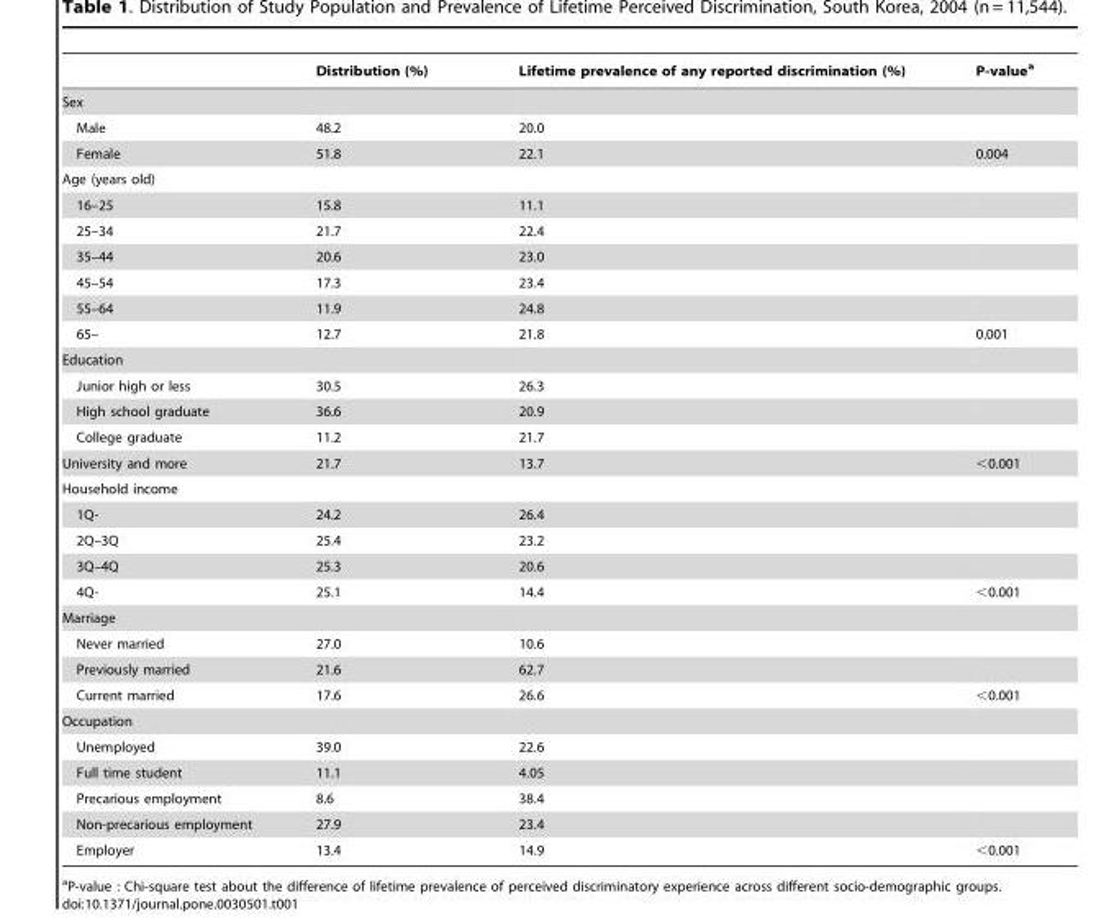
<table><thead><tr><td></td><td>Distribution (%)</td><td>Lifetime prevalence of any reported discrimination (%)</td><td>P-value<sup>a</sup></td></tr></thead><tbody><tr><td colspan="4">Sex</td></tr><tr><td>Male</td><td>48.2</td><td>20.0</td><td></td></tr><tr><td>Female</td><td>51.8</td><td>22.1</td><td>0.004</td></tr><tr><td colspan="4">Age (years old)</td></tr><tr><td>16–25</td><td>15.8</td><td>11.1</td><td></td></tr><tr><td>25–34</td><td>21.7</td><td>22.4</td><td></td></tr><tr><td>35–44</td><td>20.6</td><td>23.0</td><td></td></tr><tr><td>45–54</td><td>17.3</td><td>23.4</td><td></td></tr><tr><td>55–64</td><td>11.9</td><td>24.8</td><td></td></tr><tr><td>65–</td><td>12.7</td><td>21.8</td><td>0.001</td></tr><tr><td colspan="4">Education</td></tr><tr><td>Junior high or less</td><td>30.5</td><td>26.3</td><td></td></tr><tr><td>High school graduate</td><td>36.6</td><td>20.9</td><td></td></tr><tr><td>College graduate</td><td>11.2</td><td>21.7</td><td></td></tr><tr><td>University and more</td><td>21.7</td><td>13.7</td><td>&lt;0.001</td></tr><tr><td colspan="4">Household income</td></tr><tr><td>1Q-</td><td>24.2</td><td>26.4</td><td></td></tr><tr><td>2Q–3Q</td><td>25.4</td><td>23.2</td><td></td></tr><tr><td>3Q–4Q</td><td>25.3</td><td>20.6</td><td></td></tr><tr><td>4Q-</td><td>25.1</td><td>14.4</td><td>&lt;0.001</td></tr><tr><td colspan="4">Marriage</td></tr><tr><td>Never married</td><td>27.0</td><td>10.6</td><td></td></tr><tr><td>Previously married</td><td>21.6</td><td>62.7</td><td></td></tr><tr><td>Current married</td><td>17.6</td><td>26.6</td><td>&lt;0.001</td></tr><tr><td colspan="4">Occupation</td></tr><tr><td>Unemployed</td><td>39.0</td><td>22.6</td><td></td></tr><tr><td>Full time student</td><td>11.1</td><td>4.05</td><td></td></tr><tr><td>Precarious employment</td><td>8.6</td><td>38.4</td><td></td></tr><tr><td>Non-precarious employment</td><td>27.9</td><td>23.4</td><td></td></tr><tr><td>Employer</td><td>13.4</td><td>14.9</td><td>&lt;0.001</td></tr></tbody></table>